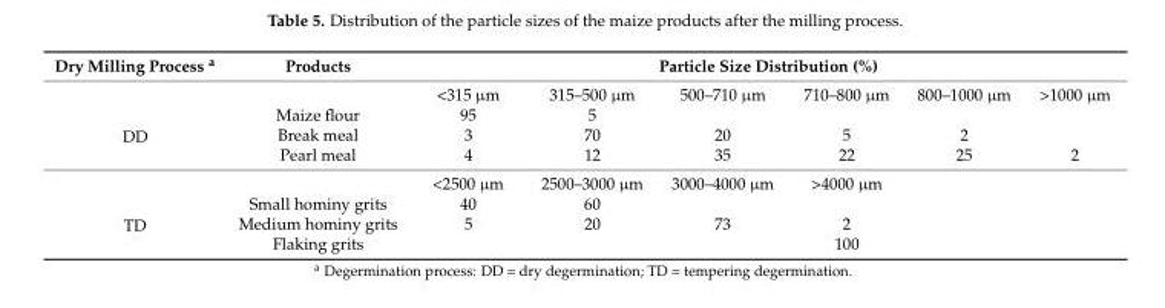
<table><thead><tr><td rowspan="2">Dry Milling Process <sup>a</sup></td><td rowspan="2">Products</td><td colspan="6">Particle Size Distribution (%)</td></tr><tr><td>&lt;315 µm</td><td>315–500 µm</td><td>500–710 µm</td><td>710–800 µm</td><td>800–1000 µm</td><td>&gt;1000 µm</td></tr></thead><tbody><tr><td rowspan="4">DD</td><td>Maize flour</td><td>95</td><td>5</td><td></td><td></td><td></td><td></td></tr><tr><td>Break meal</td><td>3</td><td>70</td><td>20</td><td>5</td><td>2</td><td></td></tr><tr><td>Pearl meal</td><td>4</td><td>12</td><td>35</td><td>22</td><td>25</td><td>2</td></tr><tr><td></td><td>&lt;2500 µm</td><td>2500–3000 µm</td><td>3000–4000 µm</td><td>&gt;4000 µm</td><td></td><td></td></tr><tr><td rowspan="3">TD</td><td>Small hominy grits</td><td>40</td><td>60</td><td></td><td></td><td></td><td></td></tr><tr><td>Medium hominy grits</td><td>5</td><td>20</td><td>73</td><td>2</td><td></td><td></td></tr><tr><td>Flaking grits</td><td></td><td></td><td></td><td>100</td><td></td><td></td></tr></tbody></table>